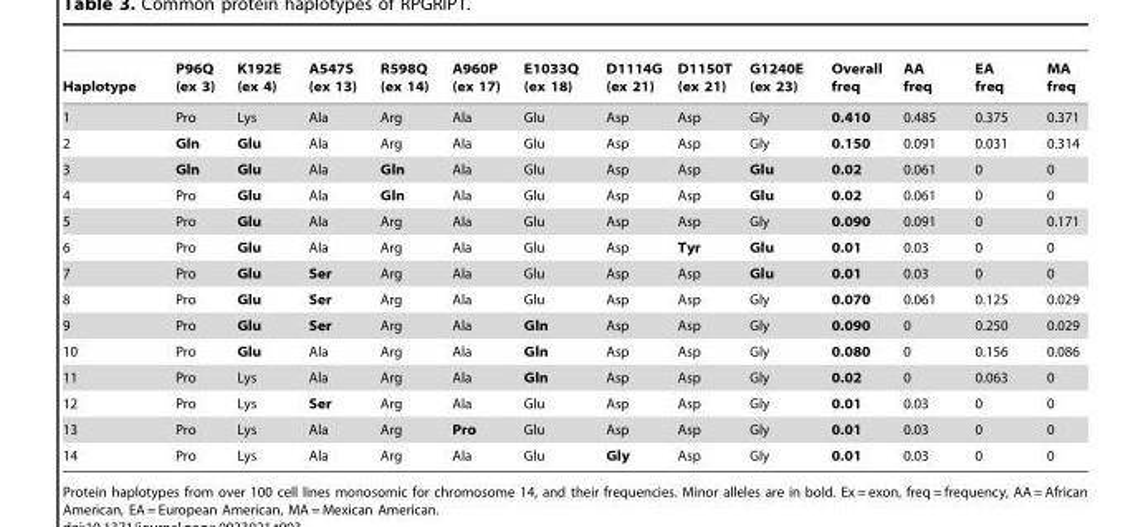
<table><thead><tr><td>Haplotype</td><td>P96Q (ex 3)</td><td>K192E (ex 4)</td><td>A547S (ex 13)</td><td>R598Q (ex 14)</td><td>A960P (ex 17)</td><td>E1033Q (ex 18)</td><td>D1114G (ex 21)</td><td>D1150T (ex 21)</td><td>G1240E (ex 23)</td><td>Overall freq</td><td>AA freq</td><td>EA freq</td><td>MA freq</td></tr></thead><tbody><tr><td>1</td><td>Pro</td><td>Lys</td><td>Ala</td><td>Arg</td><td>Ala</td><td>Glu</td><td>Asp</td><td>Asp</td><td>Gly</td><td>0.410</td><td>0.485</td><td>0.375</td><td>0.371</td></tr><tr><td>2</td><td>Gln</td><td>Glu</td><td>Ala</td><td>Arg</td><td>Ala</td><td>Glu</td><td>Asp</td><td>Asp</td><td>Gly</td><td>0.150</td><td>0.091</td><td>0.031</td><td>0.314</td></tr><tr><td>3</td><td>Gln</td><td>Glu</td><td>Ala</td><td>Gln</td><td>Ala</td><td>Glu</td><td>Asp</td><td>Asp</td><td>Glu</td><td>0.02</td><td>0.061</td><td>0</td><td>0</td></tr><tr><td>4</td><td>Pro</td><td>Glu</td><td>Ala</td><td>Gln</td><td>Ala</td><td>Glu</td><td>Asp</td><td>Asp</td><td>Glu</td><td>0.02</td><td>0.061</td><td>0</td><td>0</td></tr><tr><td>5</td><td>Pro</td><td>Glu</td><td>Ala</td><td>Arg</td><td>Ala</td><td>Glu</td><td>Asp</td><td>Asp</td><td>Gly</td><td>0.090</td><td>0.091</td><td>0</td><td>0.171</td></tr><tr><td>6</td><td>Pro</td><td>Glu</td><td>Ala</td><td>Arg</td><td>Ala</td><td>Glu</td><td>Asp</td><td>Tyr</td><td>Glu</td><td>0.01</td><td>0.03</td><td>0</td><td>0</td></tr><tr><td>7</td><td>Pro</td><td>Glu</td><td>Ser</td><td>Arg</td><td>Ala</td><td>Glu</td><td>Asp</td><td>Asp</td><td>Glu</td><td>0.01</td><td>0.03</td><td>0</td><td>0</td></tr><tr><td>8</td><td>Pro</td><td>Glu</td><td>Ser</td><td>Arg</td><td>Ala</td><td>Glu</td><td>Asp</td><td>Asp</td><td>Gly</td><td>0.070</td><td>0.061</td><td>0.125</td><td>0.029</td></tr><tr><td>9</td><td>Pro</td><td>Glu</td><td>Ser</td><td>Arg</td><td>Ala</td><td>Gln</td><td>Asp</td><td>Asp</td><td>Gly</td><td>0.090</td><td>0</td><td>0.250</td><td>0.029</td></tr><tr><td>10</td><td>Pro</td><td>Glu</td><td>Ala</td><td>Arg</td><td>Ala</td><td>Gln</td><td>Asp</td><td>Asp</td><td>Gly</td><td>0.080</td><td>0</td><td>0.156</td><td>0.086</td></tr><tr><td>11</td><td>Pro</td><td>Lys</td><td>Ala</td><td>Arg</td><td>Ala</td><td>Gln</td><td>Asp</td><td>Asp</td><td>Gly</td><td>0.02</td><td>0</td><td>0.063</td><td>0</td></tr><tr><td>12</td><td>Pro</td><td>Lys</td><td>Ser</td><td>Arg</td><td>Ala</td><td>Glu</td><td>Asp</td><td>Asp</td><td>Gly</td><td>0.01</td><td>0.03</td><td>0</td><td>0</td></tr><tr><td>13</td><td>Pro</td><td>Lys</td><td>Ala</td><td>Arg</td><td>Pro</td><td>Glu</td><td>Asp</td><td>Asp</td><td>Gly</td><td>0.01</td><td>0.03</td><td>0</td><td>0</td></tr><tr><td>14</td><td>Pro</td><td>Lys</td><td>Ala</td><td>Arg</td><td>Ala</td><td>Glu</td><td>Gly</td><td>Asp</td><td>Gly</td><td>0.01</td><td>0.03</td><td>0</td><td>0</td></tr></tbody></table>